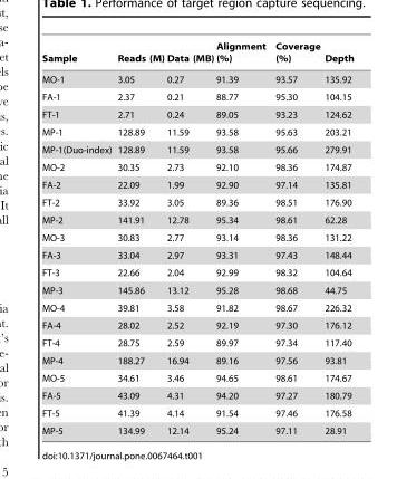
<table><thead><tr><td>Sample</td><td>Reads (M)</td><td>Data (MB)</td><td>Alignment (%)</td><td>Coverage (%)</td><td>Depth</td></tr></thead><tbody><tr><td>MO-1</td><td>3.05</td><td>0.27</td><td>91.39</td><td>93.57</td><td>135.92</td></tr><tr><td>FA-1</td><td>2.37</td><td>0.21</td><td>88.77</td><td>95.30</td><td>104.15</td></tr><tr><td>FT-1</td><td>2.71</td><td>0.24</td><td>89.05</td><td>93.23</td><td>124.62</td></tr><tr><td>MP-1</td><td>128.89</td><td>11.59</td><td>93.58</td><td>95.63</td><td>203.21</td></tr><tr><td>MP-1(Duo-index)</td><td>128.89</td><td>11.59</td><td>93.58</td><td>95.66</td><td>279.91</td></tr><tr><td>MO-2</td><td>30.35</td><td>2.73</td><td>92.10</td><td>98.36</td><td>174.87</td></tr><tr><td>FA-2</td><td>22.09</td><td>1.99</td><td>92.90</td><td>97.14</td><td>135.81</td></tr><tr><td>FT-2</td><td>33.92</td><td>3.05</td><td>89.36</td><td>98.51</td><td>176.90</td></tr><tr><td>MP-2</td><td>141.91</td><td>12.78</td><td>95.34</td><td>98.61</td><td>62.28</td></tr><tr><td>MO-3</td><td>30.83</td><td>2.77</td><td>93.14</td><td>98.36</td><td>131.22</td></tr><tr><td>FA-3</td><td>33.04</td><td>2.97</td><td>93.31</td><td>97.43</td><td>148.44</td></tr><tr><td>FT-3</td><td>22.66</td><td>2.04</td><td>92.99</td><td>98.32</td><td>104.64</td></tr><tr><td>MP-3</td><td>145.86</td><td>13.12</td><td>95.28</td><td>98.68</td><td>44.75</td></tr><tr><td>MO-4</td><td>39.81</td><td>3.58</td><td>91.82</td><td>98.67</td><td>226.32</td></tr><tr><td>FA-4</td><td>28.02</td><td>2.52</td><td>92.19</td><td>97.30</td><td>176.12</td></tr><tr><td>FT-4</td><td>28.75</td><td>2.59</td><td>89.97</td><td>97.34</td><td>117.40</td></tr><tr><td>MP-4</td><td>188.27</td><td>16.94</td><td>89.16</td><td>97.56</td><td>93.81</td></tr><tr><td>MO-5</td><td>34.61</td><td>3.46</td><td>94.65</td><td>98.61</td><td>174.67</td></tr><tr><td>FA-5</td><td>43.09</td><td>4.31</td><td>94.20</td><td>97.27</td><td>180.79</td></tr><tr><td>FT-5</td><td>41.39</td><td>4.14</td><td>91.54</td><td>97.46</td><td>176.58</td></tr><tr><td>MP-5</td><td>134.99</td><td>12.14</td><td>95.24</td><td>97.11</td><td>28.91</td></tr></tbody></table>